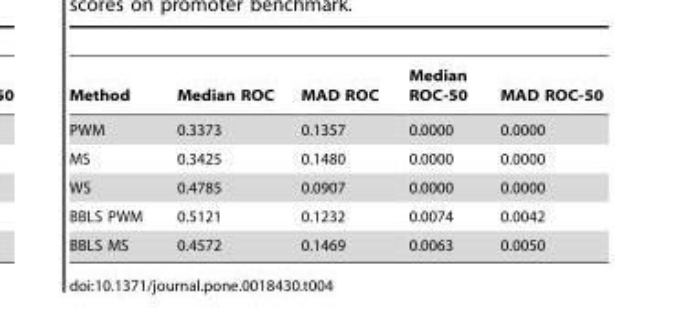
<table><thead><tr><td>Method</td><td>Median ROC</td><td>MAD ROC</td><td>Median ROC-50</td><td>MAD ROC-50</td></tr></thead><tbody><tr><td>PWM</td><td>0.3373</td><td>0.1357</td><td>0.0000</td><td>0.0000</td></tr><tr><td>MS</td><td>0.3425</td><td>0.1480</td><td>0.0000</td><td>0.0000</td></tr><tr><td>WS</td><td>0.4785</td><td>0.0907</td><td>0.0000</td><td>0.0000</td></tr><tr><td>BBLS PWM</td><td>0.5121</td><td>0.1232</td><td>0.0074</td><td>0.0042</td></tr><tr><td>BBLS MS</td><td>0.4572</td><td>0.1469</td><td>0.0063</td><td>0.0050</td></tr></tbody></table>